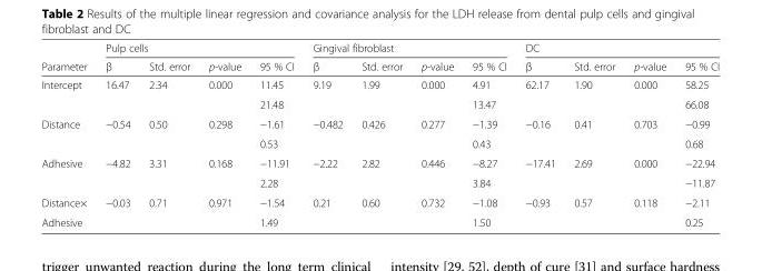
<table><thead><tr><td rowspan="2">Parameter</td><td colspan="4">Pulp cells</td><td colspan="4">Gingival fibroblast</td><td colspan="4">DC</td></tr><tr><td>β</td><td>Std. error</td><td>p-value</td><td>95 % CI</td><td>β</td><td>Std. error</td><td>p-value</td><td>95 % CI</td><td>β</td><td>Std. error</td><td>p-value</td><td>95 % CI</td></tr></thead><tbody><tr><td rowspan="2">Intercept</td><td rowspan="2">16.47</td><td rowspan="2">2.34</td><td rowspan="2">0.000</td><td>11.45</td><td rowspan="2">9.19</td><td rowspan="2">1.99</td><td rowspan="2">0.000</td><td>4.91</td><td rowspan="2">62.17</td><td rowspan="2">1.90</td><td rowspan="2">0.000</td><td>58.25</td></tr><tr><td>21.48</td><td>13.47</td><td>66.08</td></tr><tr><td rowspan="2">Distance</td><td rowspan="2">−0.54</td><td rowspan="2">0.50</td><td rowspan="2">0.298</td><td>−1.61</td><td rowspan="2">−0.482</td><td rowspan="2">0.426</td><td rowspan="2">0.277</td><td>−1.39</td><td rowspan="2">−0.16</td><td rowspan="2">0.41</td><td rowspan="2">0.703</td><td>−0.99</td></tr><tr><td>0.53</td><td>0.43</td><td>0.68</td></tr><tr><td rowspan="2">Adhesive</td><td rowspan="2">−4.82</td><td rowspan="2">3.31</td><td rowspan="2">0.168</td><td>−11.91</td><td rowspan="2">−2.22</td><td rowspan="2">2.82</td><td rowspan="2">0.446</td><td>−8.27</td><td rowspan="2">−17.41</td><td rowspan="2">2.69</td><td rowspan="2">0.000</td><td>−22.94</td></tr><tr><td>2.28</td><td>3.84</td><td>−11.87</td></tr><tr><td>Distance×</td><td rowspan="2">−0.03</td><td rowspan="2">0.71</td><td rowspan="2">0.971</td><td>−1.54</td><td rowspan="2">0.21</td><td rowspan="2">0.60</td><td rowspan="2">0.732</td><td>−1.08</td><td rowspan="2">−0.93</td><td rowspan="2">0.57</td><td rowspan="2">0.118</td><td>−2.11</td></tr><tr><td>Adhesive</td><td>1.49</td><td>1.50</td><td>0.25</td></tr></tbody></table>